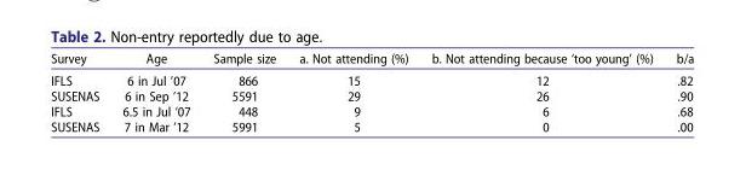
<table><thead><tr><td>Survey</td><td>Age</td><td>Sample size</td><td>a. Not attending (%)</td><td>b. Not attending because ‘too young’ (%)</td><td>b/a</td></tr></thead><tbody><tr><td>IFLS</td><td>6 in Jul ’07</td><td>866</td><td>15</td><td>12</td><td>.82</td></tr><tr><td>SUSENAS</td><td>6 in Sep ’12</td><td>5591</td><td>29</td><td>26</td><td>.90</td></tr><tr><td>IFLS</td><td>6.5 in Jul ’07</td><td>448</td><td>9</td><td>6</td><td>.68</td></tr><tr><td>SUSENAS</td><td>7 in Mar ’12</td><td>5991</td><td>5</td><td>0</td><td>.00</td></tr></tbody></table>